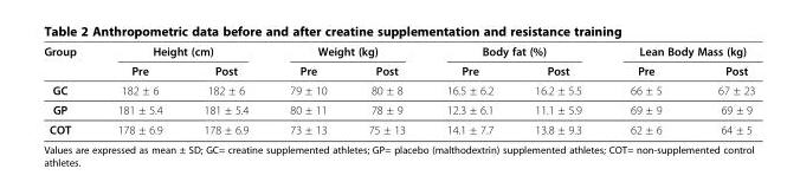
<table><thead><tr><td rowspan="2">Group</td><td colspan="2">Height (cm)</td><td colspan="2">Weight (kg)</td><td colspan="2">Body fat (%)</td><td colspan="2">Lean Body Mass (kg)</td></tr><tr><td>Pre</td><td>Post</td><td>Pre</td><td>Post</td><td>Pre</td><td>Post</td><td>Pre</td><td>Post</td></tr></thead><tbody><tr><td>GC</td><td>182 ± 6</td><td>182 ± 6</td><td>79 ± 10</td><td>80 ± 8</td><td>16.5 ± 6.2</td><td>16.2 ± 5.5</td><td>66 ± 5</td><td>67 ± 23</td></tr><tr><td>GP</td><td>181 ± 5.4</td><td>181 ± 5.4</td><td>80 ± 11</td><td>78 ± 9</td><td>12.3 ± 6.1</td><td>11.1 ± 5.9</td><td>69 ± 9</td><td>69 ± 9</td></tr><tr><td>COT</td><td>178 ± 6.9</td><td>178 ± 6.9</td><td>73 ± 13</td><td>75 ± 13</td><td>14.1 ± 7.7</td><td>13.8 ± 9.3</td><td>62 ± 6</td><td>64 ± 5</td></tr></tbody></table>